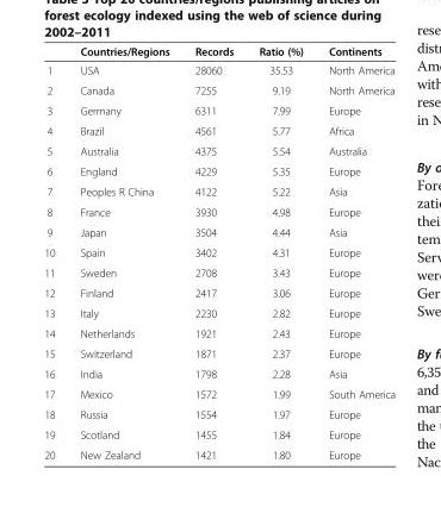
<table><thead><tr><td></td><td>Countries/Regions</td><td>Records</td><td>Ratio (%)</td><td>Continents</td></tr></thead><tbody><tr><td>1</td><td>USA</td><td>28060</td><td>35.53</td><td>North America</td></tr><tr><td>2</td><td>Canada</td><td>7255</td><td>9.19</td><td>North America</td></tr><tr><td>3</td><td>Germany</td><td>6311</td><td>7.99</td><td>Europe</td></tr><tr><td>4</td><td>Brazil</td><td>4561</td><td>5.77</td><td>Africa</td></tr><tr><td>5</td><td>Australia</td><td>4375</td><td>5.54</td><td>Australia</td></tr><tr><td>6</td><td>England</td><td>4229</td><td>5.35</td><td>Europe</td></tr><tr><td>7</td><td>Peoples R China</td><td>4122</td><td>5.22</td><td>Asia</td></tr><tr><td>8</td><td>France</td><td>3930</td><td>4.98</td><td>Europe</td></tr><tr><td>9</td><td>Japan</td><td>3504</td><td>4.44</td><td>Asia</td></tr><tr><td>10</td><td>Spain</td><td>3402</td><td>4.31</td><td>Europe</td></tr><tr><td>11</td><td>Sweden</td><td>2708</td><td>3.43</td><td>Europe</td></tr><tr><td>12</td><td>Finland</td><td>2417</td><td>3.06</td><td>Europe</td></tr><tr><td>13</td><td>Italy</td><td>2230</td><td>2.82</td><td>Europe</td></tr><tr><td>14</td><td>Netherlands</td><td>1921</td><td>2.43</td><td>Europe</td></tr><tr><td>15</td><td>Switzerland</td><td>1871</td><td>2.37</td><td>Europe</td></tr><tr><td>16</td><td>India</td><td>1798</td><td>2.28</td><td>Asia</td></tr><tr><td>17</td><td>Mexico</td><td>1572</td><td>1.99</td><td>South America</td></tr><tr><td>18</td><td>Russia</td><td>1554</td><td>1.97</td><td>Europe</td></tr><tr><td>19</td><td>Scotland</td><td>1455</td><td>1.84</td><td>Europe</td></tr><tr><td>20</td><td>New Zealand</td><td>1421</td><td>1.80</td><td>Europe</td></tr></tbody></table>